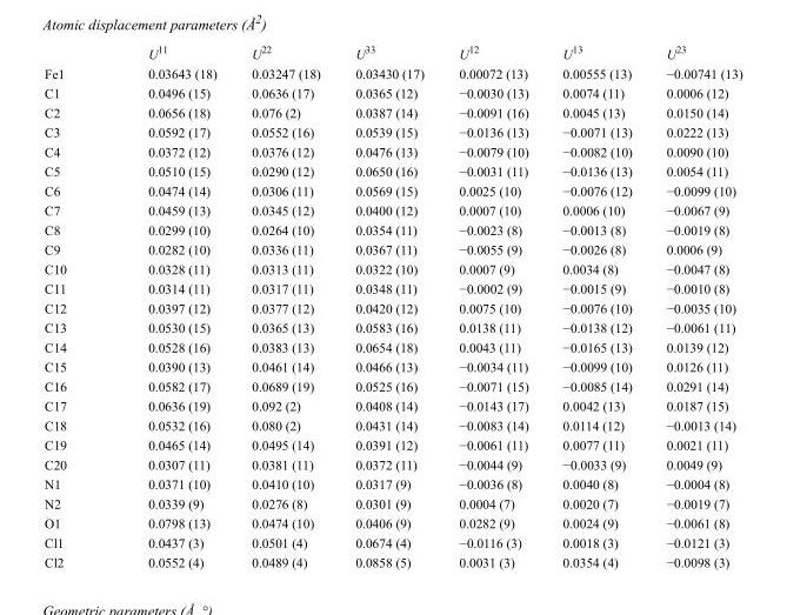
<table><thead><tr><td></td><td>U<sup>11</sup></td><td>U<sup>22</sup></td><td>U<sup>33</sup></td><td>U<sup>12</sup></td><td>U<sup>13</sup></td><td>U<sup>23</sup></td></tr></thead><tbody><tr><td>Fe1</td><td>0.03643 (18)</td><td>0.03247 (18)</td><td>0.03430 (17)</td><td>0.00072 (13)</td><td>0.00555 (13)</td><td>−0.00741 (13)</td></tr><tr><td>C1</td><td>0.0496 (15)</td><td>0.0636 (17)</td><td>0.0365 (12)</td><td>−0.0030 (13)</td><td>0.0074 (11)</td><td>0.0006 (12)</td></tr><tr><td>C2</td><td>0.0656 (18)</td><td>0.076 (2)</td><td>0.0387 (14)</td><td>−0.0091 (16)</td><td>0.0045 (13)</td><td>0.0150 (14)</td></tr><tr><td>C3</td><td>0.0592 (17)</td><td>0.0552 (16)</td><td>0.0539 (15)</td><td>−0.0136 (13)</td><td>−0.0071 (13)</td><td>0.0222 (13)</td></tr><tr><td>C4</td><td>0.0372 (12)</td><td>0.0376 (12)</td><td>0.0476 (13)</td><td>−0.0079 (10)</td><td>−0.0082 (10)</td><td>0.0090 (10)</td></tr><tr><td>C5</td><td>0.0510 (15)</td><td>0.0290 (12)</td><td>0.0650 (16)</td><td>−0.0031 (11)</td><td>−0.0136 (13)</td><td>0.0054 (11)</td></tr><tr><td>C6</td><td>0.0474 (14)</td><td>0.0306 (11)</td><td>0.0569 (15)</td><td>0.0025 (10)</td><td>−0.0076 (12)</td><td>−0.0099 (10)</td></tr><tr><td>C7</td><td>0.0459 (13)</td><td>0.0345 (12)</td><td>0.0400 (12)</td><td>0.0007 (10)</td><td>0.0006 (10)</td><td>−0.0067 (9)</td></tr><tr><td>C8</td><td>0.0299 (10)</td><td>0.0264 (10)</td><td>0.0354 (11)</td><td>−0.0023 (8)</td><td>−0.0013 (8)</td><td>−0.0019 (8)</td></tr><tr><td>C9</td><td>0.0282 (10)</td><td>0.0336 (11)</td><td>0.0367 (11)</td><td>−0.0055 (9)</td><td>−0.0026 (8)</td><td>0.0006 (9)</td></tr><tr><td>C10</td><td>0.0328 (11)</td><td>0.0313 (11)</td><td>0.0322 (10)</td><td>0.0007 (9)</td><td>0.0034 (8)</td><td>−0.0047 (8)</td></tr><tr><td>C11</td><td>0.0314 (11)</td><td>0.0317 (11)</td><td>0.0348 (11)</td><td>−0.0002 (9)</td><td>−0.0015 (9)</td><td>−0.0010 (8)</td></tr><tr><td>C12</td><td>0.0397 (12)</td><td>0.0377 (12)</td><td>0.0420 (12)</td><td>0.0075 (10)</td><td>−0.0076 (10)</td><td>−0.0035 (10)</td></tr><tr><td>C13</td><td>0.0530 (15)</td><td>0.0365 (13)</td><td>0.0583 (16)</td><td>0.0138 (11)</td><td>−0.0138 (12)</td><td>−0.0061 (11)</td></tr><tr><td>C14</td><td>0.0528 (16)</td><td>0.0383 (13)</td><td>0.0654 (18)</td><td>0.0043 (11)</td><td>−0.0165 (13)</td><td>0.0139 (12)</td></tr><tr><td>C15</td><td>0.0390 (13)</td><td>0.0461 (14)</td><td>0.0466 (13)</td><td>−0.0034 (11)</td><td>−0.0099 (10)</td><td>0.0126 (11)</td></tr><tr><td>C16</td><td>0.0582 (17)</td><td>0.0689 (19)</td><td>0.0525 (16)</td><td>−0.0071 (15)</td><td>−0.0085 (14)</td><td>0.0291 (14)</td></tr><tr><td>C17</td><td>0.0636 (19)</td><td>0.092 (2)</td><td>0.0408 (14)</td><td>−0.0143 (17)</td><td>0.0042 (13)</td><td>0.0187 (15)</td></tr><tr><td>C18</td><td>0.0532 (16)</td><td>0.080 (2)</td><td>0.0431 (14)</td><td>−0.0083 (14)</td><td>0.0114 (12)</td><td>−0.0013 (14)</td></tr><tr><td>C19</td><td>0.0465 (14)</td><td>0.0495 (14)</td><td>0.0391 (12)</td><td>−0.0061 (11)</td><td>0.0077 (11)</td><td>0.0021 (11)</td></tr><tr><td>C20</td><td>0.0307 (11)</td><td>0.0381 (11)</td><td>0.0372 (11)</td><td>−0.0044 (9)</td><td>−0.0033 (9)</td><td>0.0049 (9)</td></tr><tr><td>N1</td><td>0.0371 (10)</td><td>0.0410 (10)</td><td>0.0317 (9)</td><td>−0.0036 (8)</td><td>0.0040 (8)</td><td>−0.0004 (8)</td></tr><tr><td>N2</td><td>0.0339 (9)</td><td>0.0276 (8)</td><td>0.0301 (9)</td><td>0.0004 (7)</td><td>0.0020 (7)</td><td>−0.0019 (7)</td></tr><tr><td>O1</td><td>0.0798 (13)</td><td>0.0474 (10)</td><td>0.0406 (9)</td><td>0.0282 (9)</td><td>0.0024 (9)</td><td>−0.0061 (8)</td></tr><tr><td>Cl1</td><td>0.0437 (3)</td><td>0.0501 (4)</td><td>0.0674 (4)</td><td>−0.0116 (3)</td><td>0.0018 (3)</td><td>−0.0121 (3)</td></tr><tr><td>Cl2</td><td>0.0552 (4)</td><td>0.0489 (4)</td><td>0.0858 (5)</td><td>0.0031 (3)</td><td>0.0354 (4)</td><td>−0.0098 (3)</td></tr></tbody></table>